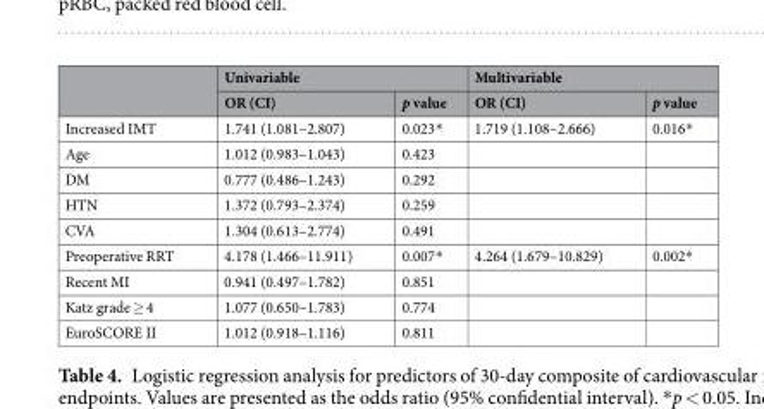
<table><thead><tr><td rowspan="2"></td><td colspan="2">Univariable</td><td colspan="2">Multivariable</td></tr><tr><td>OR (CI)</td><td>p value</td><td>OR (CI)</td><td>p value</td></tr></thead><tbody><tr><td>Increased IMT</td><td>1.741 (1.081–2.807)</td><td>0.023*</td><td>1.719 (1.108–2.666)</td><td>0.016*</td></tr><tr><td>Age</td><td>1.012 (0.983–1.043)</td><td>0.423</td><td></td><td></td></tr><tr><td>DM</td><td>0.777 (0.486–1.243)</td><td>0.292</td><td></td><td></td></tr><tr><td>HTN</td><td>1.372 (0.793–2.374)</td><td>0.259</td><td></td><td></td></tr><tr><td>CVA</td><td>1.304 (0.613–2.774)</td><td>0.491</td><td></td><td></td></tr><tr><td>Preoperative RRT</td><td>4.178 (1.466–11.911)</td><td>0.007*</td><td>4.264 (1.679–10.829)</td><td>0.002*</td></tr><tr><td>Recent MI</td><td>0.941 (0.497–1.782)</td><td>0.851</td><td></td><td></td></tr><tr><td>Katz grade ≥ 4</td><td>1.077 (0.650–1.783)</td><td>0.774</td><td></td><td></td></tr><tr><td>EuroSCORE II</td><td>1.012 (0.918–1.116)</td><td>0.811</td><td></td><td></td></tr></tbody></table>